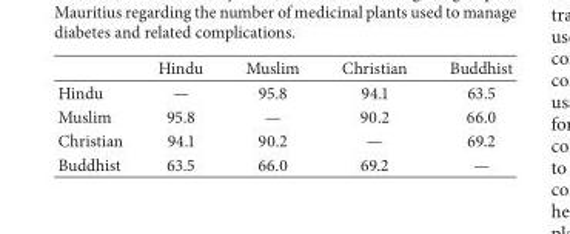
<table><thead><tr><td></td><td>Hindu</td><td>Muslim</td><td>Christian</td><td>Buddhist</td></tr></thead><tbody><tr><td>Hindu</td><td>—</td><td>95.8</td><td>94.1</td><td>63.5</td></tr><tr><td>Muslim</td><td>95.8</td><td>—</td><td>90.2</td><td>66.0</td></tr><tr><td>Christian</td><td>94.1</td><td>90.2</td><td>—</td><td>69.2</td></tr><tr><td>Buddhist</td><td>63.5</td><td>66.0</td><td>69.2</td><td>—</td></tr></tbody></table>